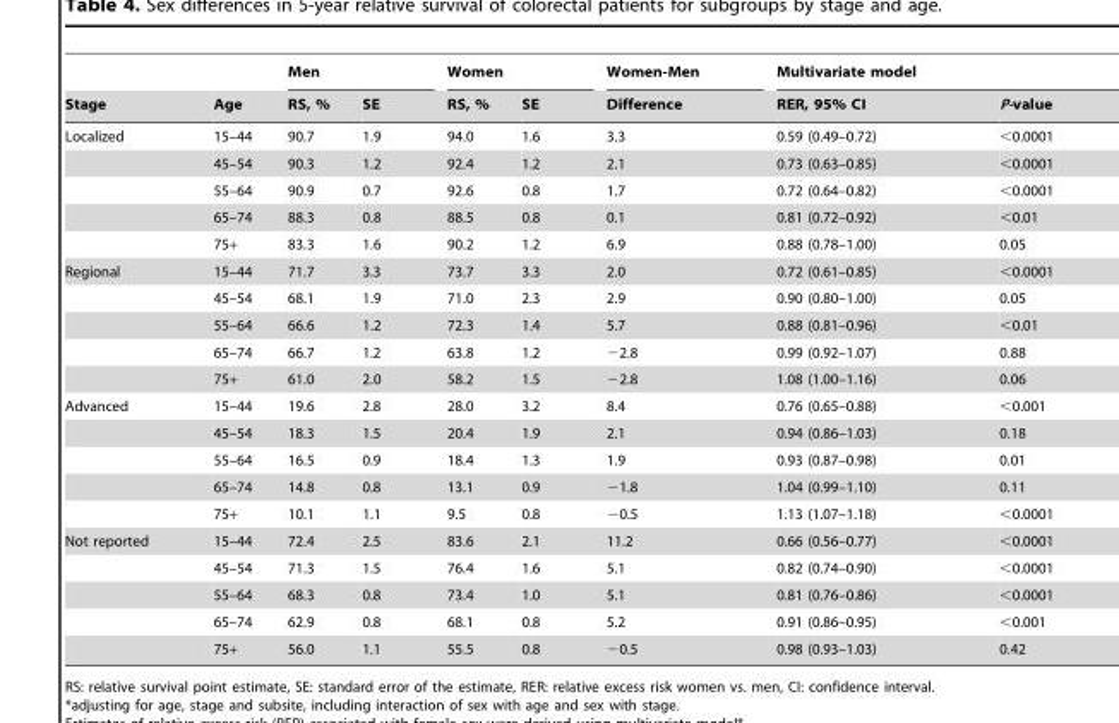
<table><thead><tr><td rowspan="2">Stage</td><td rowspan="2">Age</td><td colspan="2">Men</td><td colspan="2">Women</td><td rowspan="2">Women-Men Difference</td><td colspan="2">Multivariate model</td></tr><tr><td>RS, %</td><td>SE</td><td>RS, %</td><td>SE</td><td>RER, 95% CI</td><td>P-value</td></tr></thead><tbody><tr><td rowspan="5">Localized</td><td>15–44</td><td>90.7</td><td>1.9</td><td>94.0</td><td>1.6</td><td>3.3</td><td>0.59 (0.49–0.72)</td><td>&lt;0.0001</td></tr><tr><td>45–54</td><td>90.3</td><td>1.2</td><td>92.4</td><td>1.2</td><td>2.1</td><td>0.73 (0.63–0.85)</td><td>&lt;0.0001</td></tr><tr><td>55–64</td><td>90.9</td><td>0.7</td><td>92.6</td><td>0.8</td><td>1.7</td><td>0.72 (0.64–0.82)</td><td>&lt;0.0001</td></tr><tr><td>65–74</td><td>88.3</td><td>0.8</td><td>88.5</td><td>0.8</td><td>0.1</td><td>0.81 (0.72–0.92)</td><td>&lt;0.01</td></tr><tr><td>75+</td><td>83.3</td><td>1.6</td><td>90.2</td><td>1.2</td><td>6.9</td><td>0.88 (0.78–1.00)</td><td>0.05</td></tr><tr><td rowspan="5">Regional</td><td>15–44</td><td>71.7</td><td>3.3</td><td>73.7</td><td>3.3</td><td>2.0</td><td>0.72 (0.61–0.85)</td><td>&lt;0.0001</td></tr><tr><td>45–54</td><td>68.1</td><td>1.9</td><td>71.0</td><td>2.3</td><td>2.9</td><td>0.90 (0.80–1.00)</td><td>0.05</td></tr><tr><td>55–64</td><td>66.6</td><td>1.2</td><td>72.3</td><td>1.4</td><td>5.7</td><td>0.88 (0.81–0.96)</td><td>&lt;0.01</td></tr><tr><td>65–74</td><td>66.7</td><td>1.2</td><td>63.8</td><td>1.2</td><td>−2.8</td><td>0.99 (0.92–1.07)</td><td>0.88</td></tr><tr><td>75+</td><td>61.0</td><td>2.0</td><td>58.2</td><td>1.5</td><td>−2.8</td><td>1.08 (1.00–1.16)</td><td>0.06</td></tr><tr><td rowspan="5">Advanced</td><td>15–44</td><td>19.6</td><td>2.8</td><td>28.0</td><td>3.2</td><td>8.4</td><td>0.76 (0.65–0.88)</td><td>&lt;0.001</td></tr><tr><td>45–54</td><td>18.3</td><td>1.5</td><td>20.4</td><td>1.9</td><td>2.1</td><td>0.94 (0.86–1.03)</td><td>0.18</td></tr><tr><td>55–64</td><td>16.5</td><td>0.9</td><td>18.4</td><td>1.3</td><td>1.9</td><td>0.93 (0.87–0.98)</td><td>0.01</td></tr><tr><td>65–74</td><td>14.8</td><td>0.8</td><td>13.1</td><td>0.9</td><td>−1.8</td><td>1.04 (0.99–1.10)</td><td>0.11</td></tr><tr><td>75+</td><td>10.1</td><td>1.1</td><td>9.5</td><td>0.8</td><td>−0.5</td><td>1.13 (1.07–1.18)</td><td>&lt;0.0001</td></tr><tr><td rowspan="5">Not reported</td><td>15–44</td><td>72.4</td><td>2.5</td><td>83.6</td><td>2.1</td><td>11.2</td><td>0.66 (0.56–0.77)</td><td>&lt;0.0001</td></tr><tr><td>45–54</td><td>71.3</td><td>1.5</td><td>76.4</td><td>1.6</td><td>5.1</td><td>0.82 (0.74–0.90)</td><td>&lt;0.0001</td></tr><tr><td>55–64</td><td>68.3</td><td>0.8</td><td>73.4</td><td>1.0</td><td>5.1</td><td>0.81 (0.76–0.86)</td><td>&lt;0.0001</td></tr><tr><td>65–74</td><td>62.9</td><td>0.8</td><td>68.1</td><td>0.8</td><td>5.2</td><td>0.91 (0.86–0.95)</td><td>&lt;0.001</td></tr><tr><td>75+</td><td>56.0</td><td>1.1</td><td>55.5</td><td>0.8</td><td>−0.5</td><td>0.98 (0.93–1.03)</td><td>0.42</td></tr></tbody></table>